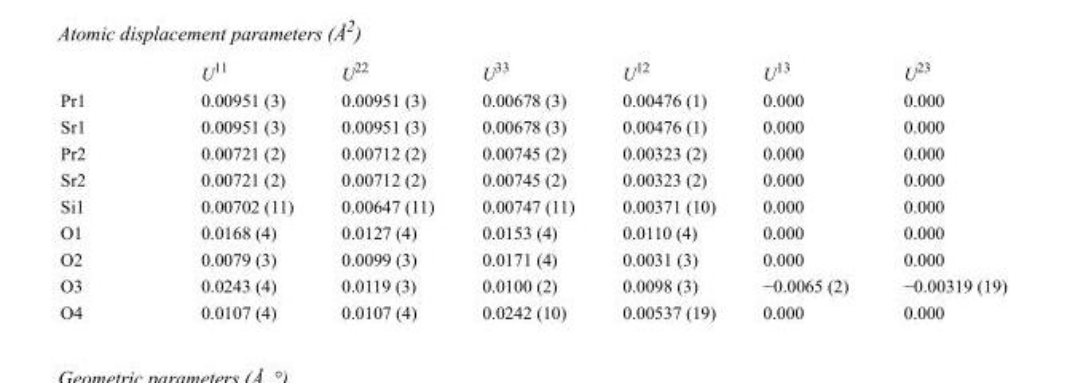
<table><thead><tr><td></td><td>U<sup>11</sup></td><td>U<sup>22</sup></td><td>U<sup>33</sup></td><td>U<sup>12</sup></td><td>U<sup>13</sup></td><td>U<sup>23</sup></td></tr></thead><tbody><tr><td>Pr1</td><td>0.00951 (3)</td><td>0.00951 (3)</td><td>0.00678 (3)</td><td>0.00476 (1)</td><td>0.000</td><td>0.000</td></tr><tr><td>Sr1</td><td>0.00951 (3)</td><td>0.00951 (3)</td><td>0.00678 (3)</td><td>0.00476 (1)</td><td>0.000</td><td>0.000</td></tr><tr><td>Pr2</td><td>0.00721 (2)</td><td>0.00712 (2)</td><td>0.00745 (2)</td><td>0.00323 (2)</td><td>0.000</td><td>0.000</td></tr><tr><td>Sr2</td><td>0.00721 (2)</td><td>0.00712 (2)</td><td>0.00745 (2)</td><td>0.00323 (2)</td><td>0.000</td><td>0.000</td></tr><tr><td>Si1</td><td>0.00702 (11)</td><td>0.00647 (11)</td><td>0.00747 (11)</td><td>0.00371 (10)</td><td>0.000</td><td>0.000</td></tr><tr><td>O1</td><td>0.0168 (4)</td><td>0.0127 (4)</td><td>0.0153 (4)</td><td>0.0110 (4)</td><td>0.000</td><td>0.000</td></tr><tr><td>O2</td><td>0.0079 (3)</td><td>0.0099 (3)</td><td>0.0171 (4)</td><td>0.0031 (3)</td><td>0.000</td><td>0.000</td></tr><tr><td>O3</td><td>0.0243 (4)</td><td>0.0119 (3)</td><td>0.0100 (2)</td><td>0.0098 (3)</td><td>−0.0065 (2)</td><td>−0.00319 (19)</td></tr><tr><td>O4</td><td>0.0107 (4)</td><td>0.0107 (4)</td><td>0.0242 (10)</td><td>0.00537 (19)</td><td>0.000</td><td>0.000</td></tr></tbody></table>